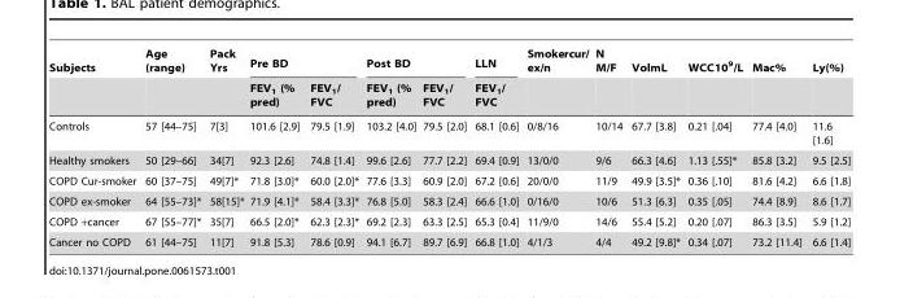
<table><thead><tr><td rowspan="2">Subjects</td><td rowspan="2">Age (range)</td><td rowspan="2">Pack Yrs</td><td colspan="2">Pre BD</td><td colspan="2">Post BD</td><td rowspan="2">LLN FEV<sub>1</sub>/ FVC</td><td rowspan="2">Smokercur/ ex/n</td><td rowspan="2">N M/F</td><td rowspan="2">VolmL</td><td rowspan="2">WCC10<sup>9</sup>/L</td><td rowspan="2">Mac%</td><td rowspan="2">Ly(%)</td></tr><tr><td>FEV<sub>1</sub> (% pred)</td><td>FEV<sub>1</sub>/ FVC</td><td>FEV<sub>1</sub> (% pred)</td><td>FEV<sub>1</sub>/ FVC</td></tr></thead><tbody><tr><td>Controls</td><td>57 [44–75]</td><td>7[3]</td><td>101.6 [2.9]</td><td>79.5 [1.9]</td><td>103.2 [4.0]</td><td>79.5 [2.0]</td><td>68.1 [0.6]</td><td>0/8/16</td><td>10/14</td><td>67.7 [3.8]</td><td>0.21 [.04]</td><td>77.4 [4.0]</td><td>11.6 [1.6]</td></tr><tr><td>Healthy smokers</td><td>50 [29–66]</td><td>34[7]</td><td>92.3 [2.6]</td><td>74.8 [1.4]</td><td>99.6 [2.6]</td><td>77.7 [2.2]</td><td>69.4 [0.9]</td><td>13/0/0</td><td>9/6</td><td>66.3 [4.6]</td><td>1.13 [.55]*</td><td>85.8 [3.2]</td><td>9.5 [2.5]</td></tr><tr><td>COPD Cur-smoker</td><td>60 [37–75]</td><td>49[7]*</td><td>71.8 [3.0]*</td><td>60.0 [2.0]*</td><td>77.6 [3.3]</td><td>60.9 [2.0]</td><td>67.2 [0.6]</td><td>20/0/0</td><td>11/9</td><td>49.9 [3.5]*</td><td>0.36 [.10]</td><td>81.6 [4.2]</td><td>6.6 [1.8]</td></tr><tr><td>COPD ex-smoker</td><td>64 [55–73]*</td><td>58[15]*</td><td>71.9 [4.1]*</td><td>58.4 [3.3]*</td><td>76.8 [5.0]</td><td>58.3 [2.4]</td><td>66.6 [1.0]</td><td>0/16/0</td><td>10/6</td><td>51.3 [6.3]</td><td>0.35 [.05]</td><td>74.4 [8.9]</td><td>8.6 [1.7]</td></tr><tr><td>COPD +cancer</td><td>67 [55–77]*</td><td>35[7]</td><td>66.5 [2.0]*</td><td>62.3 [2.3]*</td><td>69.2 [2.3]</td><td>63.3 [2.5]</td><td>65.3 [0.4]</td><td>11/9/0</td><td>14/6</td><td>55.4 [5.2]</td><td>0.20 [.07]</td><td>86.3 [3.5]</td><td>5.9 [1.2]</td></tr><tr><td>Cancer no COPD</td><td>61 [44–75]</td><td>11[7]</td><td>91.8 [5.3]</td><td>78.6 [0.9]</td><td>94.1 [6.7]</td><td>89.7 [6.9]</td><td>66.8 [1.0]</td><td>4/1/3</td><td>4/4</td><td>49.2 [9.8]*</td><td>0.34 [.07]</td><td>73.2 [11.4]</td><td>6.6 [1.4]</td></tr></tbody></table>